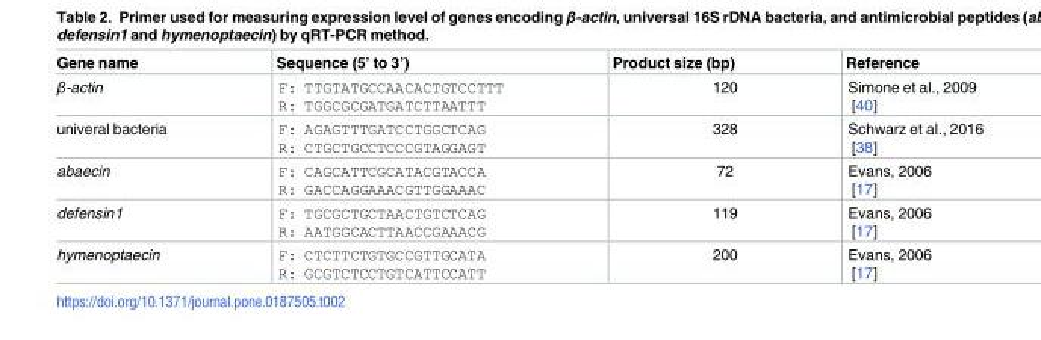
<table><thead><tr><td>Gene name</td><td>Sequence (5’ to 3’)</td><td>Product size (bp)</td><td>Reference</td></tr></thead><tbody><tr><td>β-actin</td><td>F: TTGTATGCCAACACTGTCCTTT R: TGGCGCGATGATCTTAATTT</td><td>120</td><td>Simone et al., 2009 [40]</td></tr><tr><td>univeral bacteria</td><td>F: AGAGTTTGATCCTGGCTCAG R: CTGCTGCCTCCCGTAGGAGT</td><td>328</td><td>Schwarz et al., 2016 [38]</td></tr><tr><td>abaecin</td><td>F: CAGCATTCGCATACGTACCA R: GACCAGGAAACGTTGGAAAC</td><td>72</td><td>Evans, 2006 [17]</td></tr><tr><td>defensin1</td><td>F: TGCGCTGCTAACTGTCTCAG R: AATGGCACTTAACCGAAACG</td><td>119</td><td>Evans, 2006 [17]</td></tr><tr><td>hymenoptaecin</td><td>F: CTCTTCTGTGCCGTTGCATA R: GCGTCTCCTGTCATTCCATT</td><td>200</td><td>Evans, 2006 [17]</td></tr></tbody></table>